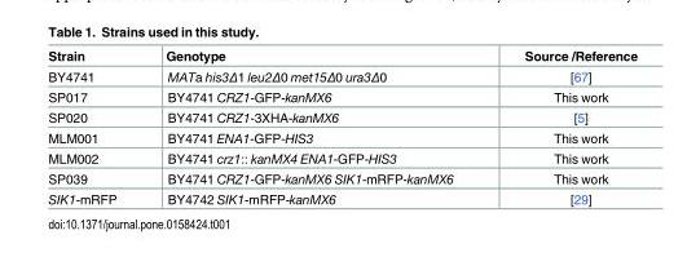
<table><thead><tr><td>Strain</td><td>Genotype</td><td>Source /Reference</td></tr></thead><tbody><tr><td>BY4741</td><td>MATa his3Δ1 leu2Δ0 met15Δ0 ura3Δ0</td><td>[67]</td></tr><tr><td>SP017</td><td>BY4741 CRZ1-GFP-kanMX6</td><td>This work</td></tr><tr><td>SP020</td><td>BY4741 CRZ1-3XHA-kanMX6</td><td>[5]</td></tr><tr><td>MLM001</td><td>BY4741 ENA1-GFP-HIS3</td><td>This work</td></tr><tr><td>MLM002</td><td>BY4741 crz1:: kanMX4 ENA1-GFP-HIS3</td><td>This work</td></tr><tr><td>SP039</td><td>BY4741 CRZ1-GFP-kanMX6 SIK1-mRFP-kanMX6</td><td>This work</td></tr><tr><td>SIK1-mRFP</td><td>BY4742 SIK1-mRFP-kanMX6</td><td>[29]</td></tr></tbody></table>